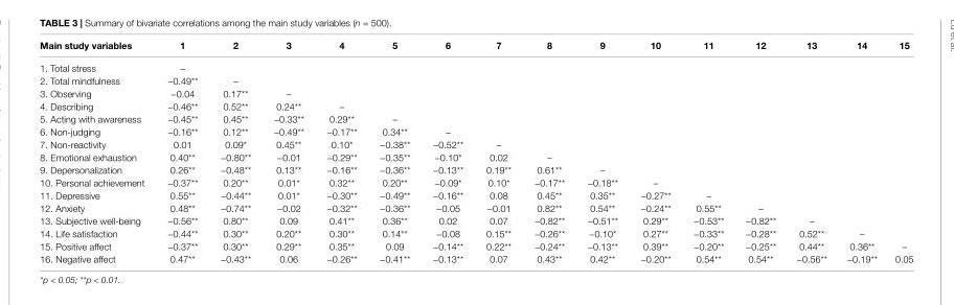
<table><thead><tr><td>Main study variables</td><td>1</td><td>2</td><td>3</td><td>4</td><td>5</td><td>6</td><td>7</td><td>8</td><td>9</td><td>10</td><td>11</td><td>12</td><td>13</td><td>14</td><td>15</td></tr></thead><tbody><tr><td>1. Total stress</td><td>–</td><td></td><td></td><td></td><td></td><td></td><td></td><td></td><td></td><td></td><td></td><td></td><td></td><td></td><td></td></tr><tr><td>2. Total mindfulness</td><td>−0.49**</td><td>–</td><td></td><td></td><td></td><td></td><td></td><td></td><td></td><td></td><td></td><td></td><td></td><td></td><td></td></tr><tr><td>3. Observing</td><td>−0.04</td><td>0.17**</td><td>–</td><td></td><td></td><td></td><td></td><td></td><td></td><td></td><td></td><td></td><td></td><td></td><td></td></tr><tr><td>4. Describing</td><td>−0.46**</td><td>0.52**</td><td>0.24**</td><td>–</td><td></td><td></td><td></td><td></td><td></td><td></td><td></td><td></td><td></td><td></td><td></td></tr><tr><td>5. Acting with awareness</td><td>−0.45**</td><td>0.45**</td><td>−0.33**</td><td>0.29**</td><td>–</td><td></td><td></td><td></td><td></td><td></td><td></td><td></td><td></td><td></td><td></td></tr><tr><td>6. Non-judging</td><td>−0.16**</td><td>0.12**</td><td>−0.49**</td><td>−0.17**</td><td>0.34**</td><td>–</td><td></td><td></td><td></td><td></td><td></td><td></td><td></td><td></td><td></td></tr><tr><td>7. Non-reactivity</td><td>0.01</td><td>0.09*</td><td>0.45**</td><td>0.10*</td><td>−0.38**</td><td>−0.52**</td><td>–</td><td></td><td></td><td></td><td></td><td></td><td></td><td></td><td></td></tr><tr><td>8. Emotional exhaustion</td><td>0.40**</td><td>−0.80**</td><td>−0.01</td><td>−0.29**</td><td>−0.35**</td><td>−0.10*</td><td>0.02</td><td>–</td><td></td><td></td><td></td><td></td><td></td><td></td><td></td></tr><tr><td>9. Depersonalization</td><td>0.26**</td><td>−0.48**</td><td>0.13**</td><td>−0.16**</td><td>−0.36**</td><td>−0.13**</td><td>0.19**</td><td>0.61**</td><td>–</td><td></td><td></td><td></td><td></td><td></td><td></td></tr><tr><td>10. Personal achievement</td><td>−0.37**</td><td>0.20**</td><td>0.01*</td><td>0.32**</td><td>0.20**</td><td>−0.09*</td><td>0.10*</td><td>−0.17**</td><td>−0.18**</td><td>–</td><td></td><td></td><td></td><td></td><td></td></tr><tr><td>11. Depressive</td><td>0.55**</td><td>−0.44**</td><td>0.01*</td><td>−0.30**</td><td>−0.49**</td><td>−0.16**</td><td>0.08</td><td>0.45**</td><td>0.35**</td><td>−0.27**</td><td>–</td><td></td><td></td><td></td><td></td></tr><tr><td>12. Anxiety</td><td>0.48**</td><td>−0.74**</td><td>−0.02</td><td>−0.32**</td><td>−0.36**</td><td>−0.05</td><td>−0.01</td><td>0.82**</td><td>0.54**</td><td>−0.24**</td><td>0.55**</td><td>–</td><td></td><td></td><td></td></tr><tr><td>13. Subjective well-being</td><td>−0.56**</td><td>0.80**</td><td>0.09</td><td>0.41**</td><td>0.36**</td><td>0.02</td><td>0.07</td><td>−0.82**</td><td>−0.51**</td><td>0.29**</td><td>−0.53**</td><td>−0.82**</td><td>–</td><td></td><td></td></tr><tr><td>14. Life satisfaction</td><td>−0.44**</td><td>0.30**</td><td>0.20**</td><td>0.30**</td><td>0.14**</td><td>−0.08</td><td>0.15**</td><td>−0.26**</td><td>−0.10*</td><td>0.27**</td><td>−0.33**</td><td>−0.28**</td><td>0.52**</td><td>–</td><td></td></tr><tr><td>15. Positive affect</td><td>−0.37**</td><td>0.30**</td><td>0.29**</td><td>0.35**</td><td>0.09</td><td>−0.14**</td><td>0.22**</td><td>−0.24**</td><td>−0.13**</td><td>0.39**</td><td>−0.20**</td><td>−0.25**</td><td>0.44**</td><td>0.36**</td><td>–</td></tr><tr><td>16. Negative affect</td><td>0.47**</td><td>−0.43**</td><td>0.06</td><td>−0.26**</td><td>−0.41**</td><td>−0.13**</td><td>0.07</td><td>0.43**</td><td>0.42**</td><td>−0.20**</td><td>0.54**</td><td>0.54**</td><td>−0.56**</td><td>−0.19**</td><td>0.05</td></tr></tbody></table>